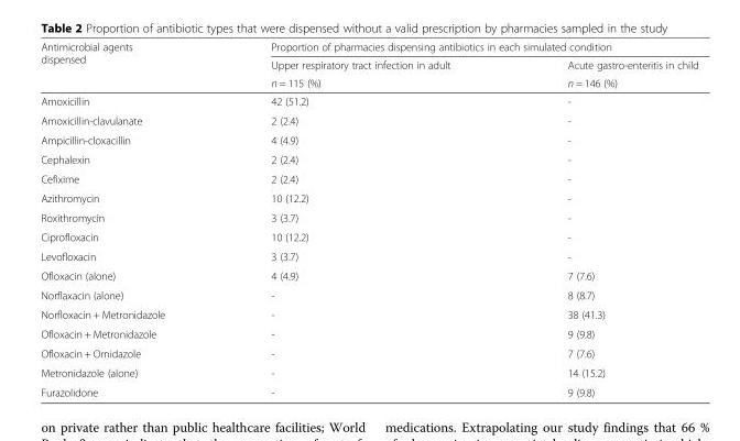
<table><thead><tr><td rowspan="3">Antimicrobial agents dispensed</td><td colspan="2">Proportion of pharmacies dispensing antibiotics in each simulated condition</td></tr><tr><td rowspan="2">Upper respiratory tract infection in adult n = 115 (%)</td><td rowspan="2">Acute gastro-enteritis in child n = 146 (%)</td></tr><tr></tr></thead><tbody><tr><td>Amoxicillin</td><td>42 (51.2)</td><td>-</td></tr><tr><td>Amoxicillin-clavulanate</td><td>2 (2.4)</td><td>-</td></tr><tr><td>Ampicillin-cloxacillin</td><td>4 (4.9)</td><td>-</td></tr><tr><td>Cephalexin</td><td>2 (2.4)</td><td>-</td></tr><tr><td>Cefixime</td><td>2 (2.4)</td><td>-</td></tr><tr><td>Azithromycin</td><td>10 (12.2)</td><td>-</td></tr><tr><td>Roxithromycin</td><td>3 (3.7)</td><td>-</td></tr><tr><td>Ciprofloxacin</td><td>10 (12.2)</td><td>-</td></tr><tr><td>Levofloxacin</td><td>3 (3.7)</td><td>-</td></tr><tr><td>Ofloxacin (alone)</td><td>4 (4.9)</td><td>7 (7.6)</td></tr><tr><td>Norflaxacin (alone)</td><td>-</td><td>8 (8.7)</td></tr><tr><td>Norfloxacin + Metronidazole</td><td>-</td><td>38 (41.3)</td></tr><tr><td>Ofloxacin + Metronidazole</td><td>-</td><td>9 (9.8)</td></tr><tr><td>Ofloxacin + Ornidazole</td><td>-</td><td>7 (7.6)</td></tr><tr><td>Metronidazole (alone)</td><td>-</td><td>14 (15.2)</td></tr><tr><td>Furazolidone</td><td>-</td><td>9 (9.8)</td></tr></tbody></table>